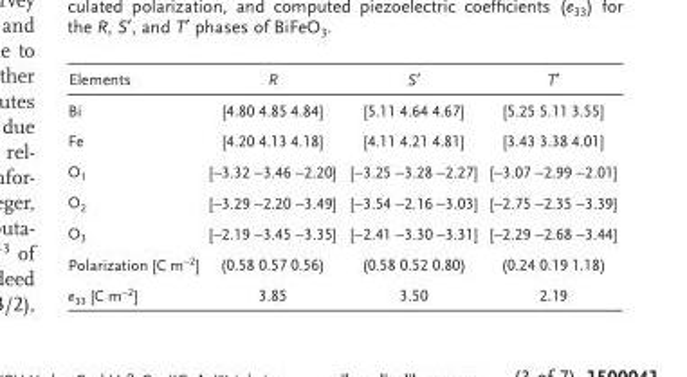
<table><thead><tr><td>Elements</td><td>R</td><td>S ′</td><td>T ′</td></tr></thead><tbody><tr><td>Bi</td><td>[4.80 4.85 4.84]</td><td>[5.11 4.64 4.67]</td><td>[5.25 5.11 3.55]</td></tr><tr><td>Fe</td><td>[4.20 4.13 4.18]</td><td>[4.11 4.21 4.81]</td><td>[3.43 3.38 4.01]</td></tr><tr><td>O <sub>1</sub></td><td>[−3.32 −3.46 −2.20]</td><td>[−3.25 −3.28 −2.27]</td><td>[−3.07 −2.99 −2.01]</td></tr><tr><td>O <sub>2</sub></td><td>[−3.29 −2.20 −3.49]</td><td>[−3.54 −2.16 −3.03]</td><td>[−2.75 −2.35 −3.39]</td></tr><tr><td>O <sub>3</sub></td><td>[−2.19 −3.45 −3.35]</td><td>[−2.41 −3.30 −3.31]</td><td>[−2.29 −2.68 −3.44]</td></tr><tr><td>Polarization [C m <sup>−2</sup> ]</td><td>(0.58 0.57 0.56)</td><td>(0.58 0.52 0.80)</td><td>(0.24 0.19 1.18)</td></tr><tr><td>e <sub>33</sub> [C m <sup>−2</sup> ]</td><td>3.85</td><td>3.50</td><td>2.19</td></tr></tbody></table>